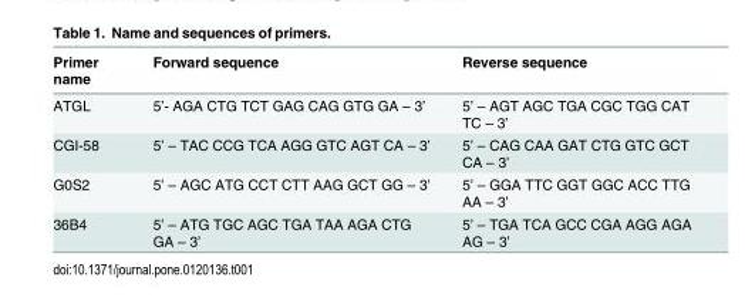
<table><thead><tr><td>Primer name</td><td>Forward sequence</td><td>Reverse sequence</td></tr></thead><tbody><tr><td>ATGL</td><td>5’- AGA CTG TCT GAG CAG GTG GA – 3’</td><td>5’ – AGT AGC TGA CGC TGG CAT TC – 3’</td></tr><tr><td>CGI-58</td><td>5’ – TAC CCG TCA AGG GTC AGT CA – 3’</td><td>5’ – CAG CAA GAT CTG GTC GCT CA – 3’</td></tr><tr><td>G0S2</td><td>5’ – AGC ATG CCT CTT AAG GCT GG – 3’</td><td>5’ – GGA TTC GGT GGC ACC TTG AA – 3’</td></tr><tr><td>36B4</td><td>5’ – ATG TGC AGC TGA TAA AGA CTG GA – 3’</td><td>5’ – TGA TCA GCC CGA AGG AGA AG – 3’</td></tr></tbody></table>